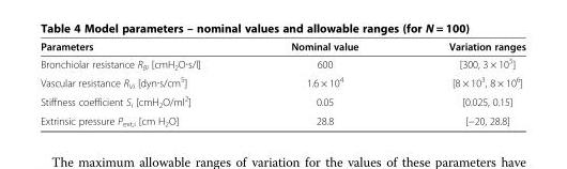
<table><thead><tr><td>Parameters</td><td>Nominal value</td><td>Variation ranges</td></tr></thead><tbody><tr><td>Bronchiolar resistance R<sub>Bi</sub> [cmH<sub>2</sub>O∙s/l]</td><td>600</td><td>[300, 3 × 10<sup>5</sup>]</td></tr><tr><td>Vascular resistance R<sub>Vi</sub> [dyn∙s/cm<sup>5</sup>]</td><td>1.6 × 10<sup>4</sup></td><td>[8 × 10<sup>3</sup>, 8 × 10<sup>6</sup>]</td></tr><tr><td>Stiffness coefficient S<sub>i</sub> [cmH<sub>2</sub>O/ml<sup>2</sup>]</td><td>0.05</td><td>[0.025, 0.15]</td></tr><tr><td>Extrinsic pressure P<sub>ext,i</sub> [cm H<sub>2</sub>O]</td><td>28.8</td><td>[−20, 28.8]</td></tr></tbody></table>